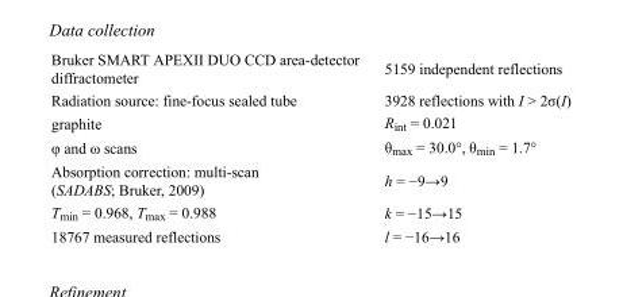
<table><tbody><tr><td>Bruker SMART APEXII DUO CCD area-detector diffractometer</td><td>5159 independent reflections</td></tr><tr><td>Radiation source: fine-focus sealed tube</td><td>3928 reflections with I &gt; 2σ(I)</td></tr><tr><td>graphite</td><td>R<sub>int</sub> = 0.021</td></tr><tr><td>φ and ω scans</td><td>θ<sub>max</sub> = 30.0°, θ<sub>min</sub> = 1.7°</td></tr><tr><td>Absorption correction: multi-scan (SADABS; Bruker, 2009)</td><td>h = −9→9</td></tr><tr><td>T<sub>min</sub> = 0.968, T<sub>max</sub> = 0.988</td><td>k = −15→15</td></tr><tr><td>18767 measured reflections</td><td>l = −16→16</td></tr></tbody></table>